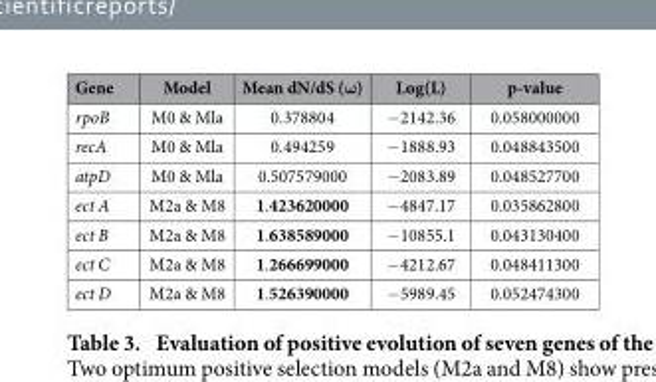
<table><thead><tr><td>Gene</td><td>Model</td><td>Mean dN/dS (ω)</td><td>Log(L)</td><td>p-value</td></tr></thead><tbody><tr><td>rpoB</td><td>M0 &amp; Mla</td><td>0.378804</td><td>− 2142.36</td><td>0.058000000</td></tr><tr><td>recA</td><td>M0 &amp; Mla</td><td>0.494259</td><td>− 1888.93</td><td>0.048843500</td></tr><tr><td>atpD</td><td>M0 &amp; Mla</td><td>0.507579000</td><td>− 2083.89</td><td>0.048527700</td></tr><tr><td>ect A</td><td>M2a &amp; M8</td><td>1.423620000</td><td>− 4847.17</td><td>0.035862800</td></tr><tr><td>ect B</td><td>M2a &amp; M8</td><td>1.638589000</td><td>− 10855.1</td><td>0.043130400</td></tr><tr><td>ect C</td><td>M2a &amp; M8</td><td>1.266699000</td><td>− 4212.67</td><td>0.048411300</td></tr><tr><td>ect D</td><td>M2a &amp; M8</td><td>1.526390000</td><td>− 5989.45</td><td>0.052474300</td></tr></tbody></table>